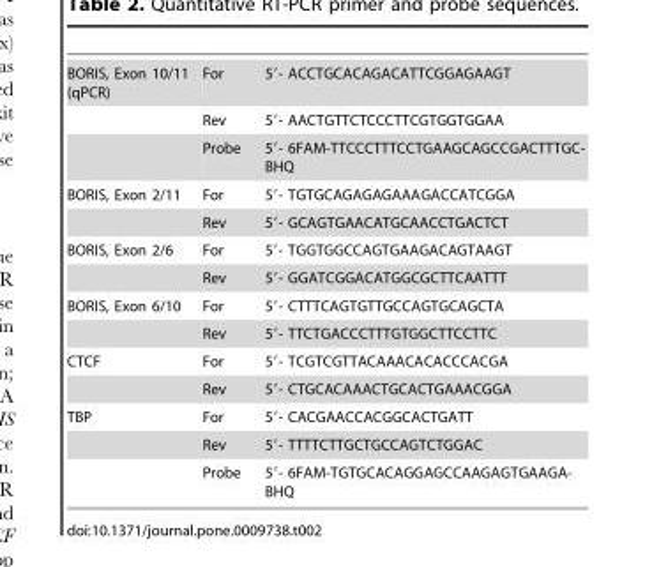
<table><tbody><tr><td rowspan="3">BORIS, Exon 10/11 (qPCR)</td><td>For</td><td>5′- ACCTGCACAGACATTCGGAGAAGT</td></tr><tr><td>Rev</td><td>5′- AACTGTTCTCCCTTCGTGGTGGAA</td></tr><tr><td>Probe</td><td>5′- 6FAM-TTCCCTTTCCTGAAGCAGCCGACTTTGC- BHQ</td></tr><tr><td rowspan="2">BORIS, Exon 2/11</td><td>For</td><td>5′- TGTGCAGAGAGAAAGACCATCGGA</td></tr><tr><td>Rev</td><td>5′- GCAGTGAACATGCAACCTGACTCT</td></tr><tr><td rowspan="2">BORIS, Exon 2/6</td><td>For</td><td>5′- TGGTGGCCAGTGAAGACAGTAAGT</td></tr><tr><td>Rev</td><td>5′- GGATCGGACATGGCGCTTCAATTT</td></tr><tr><td rowspan="2">BORIS, Exon 6/10</td><td>For</td><td>5′- CTTTCAGTGTTGCCAGTGCAGCTA</td></tr><tr><td>Rev</td><td>5′- TTCTGACCCTTTGTGGCTTCCTTC</td></tr><tr><td rowspan="2">CTCF</td><td>For</td><td>5′- TCGTCGTTACAAACACACCCACGA</td></tr><tr><td>Rev</td><td>5′- CTGCACAAACTGCACTGAAACGGA</td></tr><tr><td rowspan="3">TBP</td><td>For</td><td>5′- CACGAACCACGGCACTGATT</td></tr><tr><td>Rev</td><td>5′- TTTTCTTGCTGCCAGTCTGGAC</td></tr><tr><td>Probe</td><td>5′- 6FAM-TGTGCACAGGAGCCAAGAGTGAAGA- BHQ</td></tr></tbody></table>